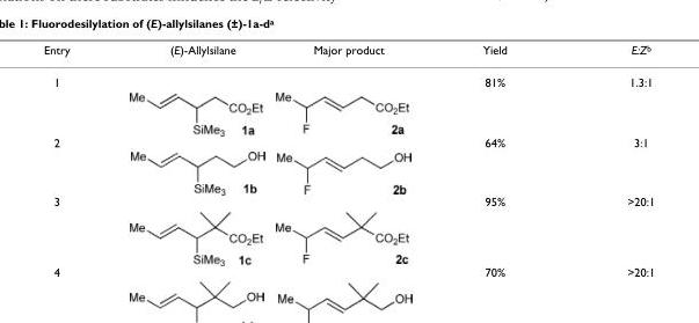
<table><thead><tr><td>Entry</td><td>(E)-Allylsilane</td><td>Major product</td><td>Yield</td><td>E:Z<sup>b</sup></td></tr></thead><tbody><tr><td>1</td><td></td><td></td><td>81%</td><td>1.3:1</td></tr><tr><td>2</td><td></td><td></td><td>64%</td><td>3:1</td></tr><tr><td>3</td><td></td><td></td><td>95%</td><td>&gt;20:1</td></tr><tr><td>4</td><td></td><td></td><td>70%</td><td>&gt;20:1</td></tr></tbody></table>